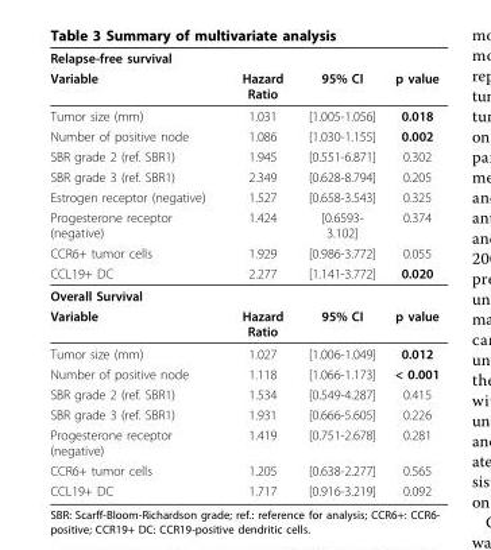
<table><thead><tr><td colspan="4">Relapse-free survival</td></tr><tr><td>Variable</td><td>Hazard Ratio</td><td>95% CI</td><td>p value</td></tr></thead><tbody><tr><td>Tumor size (mm)</td><td>1.031</td><td>[1.005-1.056]</td><td>0.018</td></tr><tr><td>Number of positive node</td><td>1.086</td><td>[1.030-1.155]</td><td>0.002</td></tr><tr><td>SBR grade 2 (ref. SBR1)</td><td>1.945</td><td>[0.551-6.871]</td><td>0.302</td></tr><tr><td>SBR grade 3 (ref. SBR1)</td><td>2.349</td><td>[0.628-8.794]</td><td>0.205</td></tr><tr><td>Estrogen receptor (negative)</td><td>1.527</td><td>[0.658-3.543]</td><td>0.325</td></tr><tr><td>Progesterone receptor (negative)</td><td>1.424</td><td>[0.6593- 3.102]</td><td>0.374</td></tr><tr><td>CCR6+ tumor cells</td><td>1.929</td><td>[0.986-3.772]</td><td>0.055</td></tr><tr><td>CCL19+ DC</td><td>2.277</td><td>[1.141-3.772]</td><td>0.020</td></tr><tr><td colspan="4">Overall Survival</td></tr><tr><td>Variable</td><td>Hazard Ratio</td><td>95% CI</td><td>p value</td></tr><tr><td>Tumor size (mm)</td><td>1.027</td><td>[1.006-1.049]</td><td>0.012</td></tr><tr><td>Number of positive node</td><td>1.118</td><td>[1.066-1.173]</td><td>&lt; 0.001</td></tr><tr><td>SBR grade 2 (ref. SBR1)</td><td>1.534</td><td>[0.549-4.287]</td><td>0.415</td></tr><tr><td>SBR grade 3 (ref. SBR1)</td><td>1.931</td><td>[0.666-5.605]</td><td>0.226</td></tr><tr><td>Progesterone receptor (negative)</td><td>1.419</td><td>[0.751-2.678]</td><td>0.281</td></tr><tr><td>CCR6+ tumor cells</td><td>1.205</td><td>[0.638-2.277]</td><td>0.565</td></tr><tr><td>CCL19+ DC</td><td>1.717</td><td>[0.916-3.219]</td><td>0.092</td></tr></tbody></table>